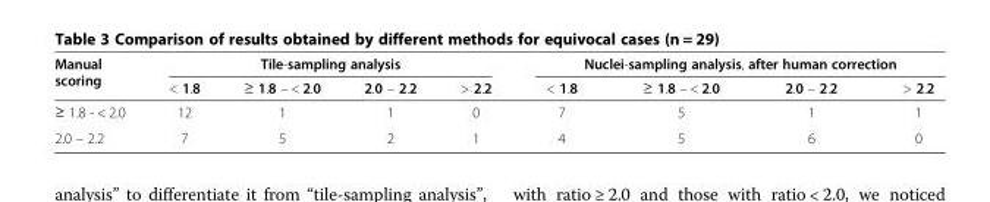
<table><thead><tr><td rowspan="2">Manual scoring</td><td colspan="4">Tile-sampling analysis</td><td colspan="4">Nuclei-sampling analysis, after human correction</td></tr><tr><td>&lt; 1.8</td><td>≥ 1.8 – &lt; 2.0</td><td>2.0 – 2.2</td><td>&gt; 2.2</td><td>&lt; 1.8</td><td>≥ 1.8 – &lt; 2.0</td><td>2.0 – 2.2</td><td>&gt; 2.2</td></tr></thead><tbody><tr><td>≥ 1.8 - &lt; 2.0</td><td>12</td><td>1</td><td>1</td><td>0</td><td>7</td><td>5</td><td>1</td><td>1</td></tr><tr><td>2.0 – 2.2</td><td>7</td><td>5</td><td>2</td><td>1</td><td>4</td><td>5</td><td>6</td><td>0</td></tr></tbody></table>